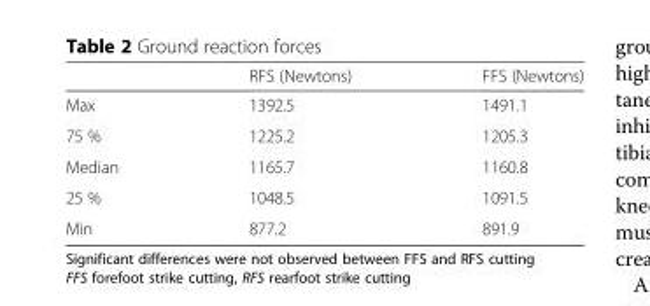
<table><thead><tr><td></td><td>RFS (Newtons)</td><td>FFS (Newtons)</td></tr></thead><tbody><tr><td>Max</td><td>1392.5</td><td>1491.1</td></tr><tr><td>75 %</td><td>1225.2</td><td>1205.3</td></tr><tr><td>Median</td><td>1165.7</td><td>1160.8</td></tr><tr><td>25 %</td><td>1048.5</td><td>1091.5</td></tr><tr><td>Min</td><td>877.2</td><td>891.9</td></tr></tbody></table>